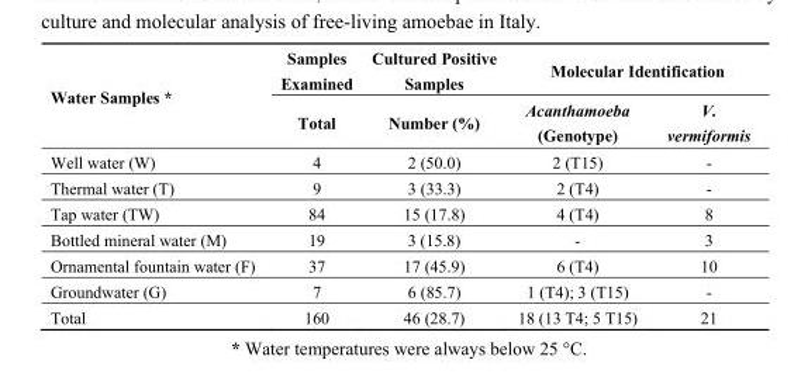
<table><thead><tr><td rowspan="2">Water Samples *</td><td rowspan="2">Samples Examined Total</td><td rowspan="2">Cultured Positive Samples Number (%)</td><td colspan="2">Molecular Identification</td></tr><tr><td>Acanthamoeba (Genotype)</td><td>V. vermiformis</td></tr></thead><tbody><tr><td>Well water (W)</td><td>4</td><td>2 (50.0)</td><td>2 (T15)</td><td>-</td></tr><tr><td>Thermal water (T)</td><td>9</td><td>3 (33.3)</td><td>2 (T4)</td><td>-</td></tr><tr><td>Tap water (TW)</td><td>84</td><td>15 (17.8)</td><td>4 (T4)</td><td>8</td></tr><tr><td>Bottled mineral water (M)</td><td>19</td><td>3 (15.8)</td><td>-</td><td>3</td></tr><tr><td>Ornamental fountain water (F)</td><td>37</td><td>17 (45.9)</td><td>6 (T4)</td><td>10</td></tr><tr><td>Groundwater (G)</td><td>7</td><td>6 (85.7)</td><td>1 (T4); 3 (T15)</td><td>-</td></tr><tr><td>Total</td><td>160</td><td>46 (28.7)</td><td>18 (13 T4; 5 T15)</td><td>21</td></tr></tbody></table>